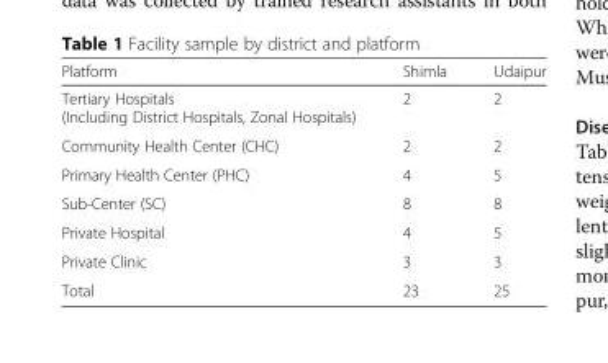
<table><thead><tr><td>Platform</td><td>Shimla</td><td>Udaipur</td></tr></thead><tbody><tr><td>Tertiary Hospitals (Including District Hospitals, Zonal Hospitals)</td><td>2</td><td>2</td></tr><tr><td>Community Health Center (CHC)</td><td>2</td><td>2</td></tr><tr><td>Primary Health Center (PHC)</td><td>4</td><td>5</td></tr><tr><td>Sub-Center (SC)</td><td>8</td><td>8</td></tr><tr><td>Private Hospital</td><td>4</td><td>5</td></tr><tr><td>Private Clinic</td><td>3</td><td>3</td></tr><tr><td>Total</td><td>23</td><td>25</td></tr></tbody></table>